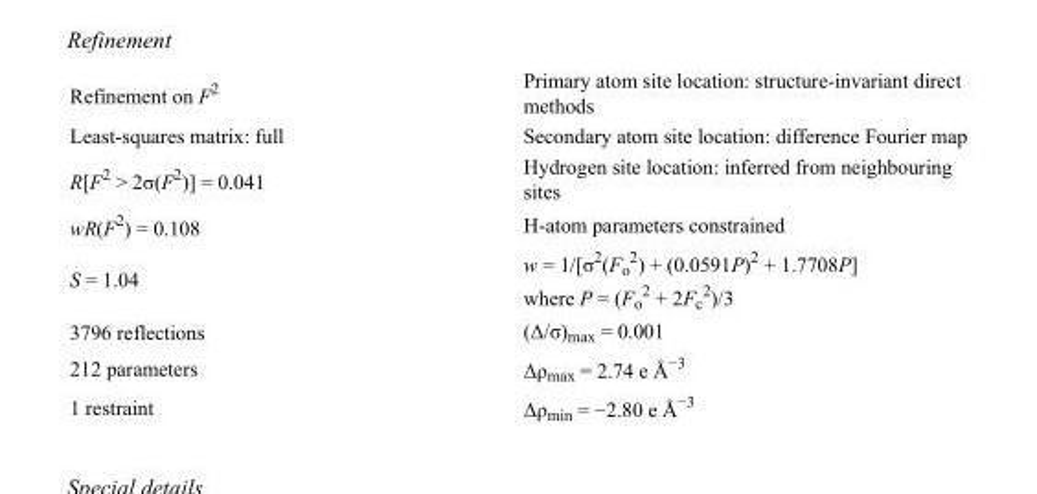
<table><tbody><tr><td>Refinement on F<sup>2</sup></td><td>Primary atom site location: structure-invariant direct methods</td></tr><tr><td>Least-squares matrix: full</td><td>Secondary atom site location: difference Fourier map</td></tr><tr><td>R[F<sup>2</sup> &gt; 2σ(F<sup>2</sup>)] = 0.041</td><td>Hydrogen site location: inferred from neighbouring sites</td></tr><tr><td>wR(F<sup>2</sup>) = 0.108</td><td>H-atom parameters constrained</td></tr><tr><td>S = 1.04</td><td>w = 1/[σ<sup>2</sup>(F<sub>o</sub> <sup>2</sup>) + (0.0591P)<sup>2</sup> + 1.7708P] where P = (F<sub>o</sub> <sup>2</sup> + 2F<sub>c</sub> <sup>2</sup>)/3</td></tr><tr><td>3796 reflections</td><td>(Δ/σ)<sub>max</sub> = 0.001</td></tr><tr><td>212 parameters</td><td>Δρ<sub>max</sub> = 2.74 e Å<sup>−3</sup></td></tr><tr><td>1 restraint</td><td>Δρ<sub>min</sub> = −2.80 e Å<sup>−3</sup></td></tr></tbody></table>